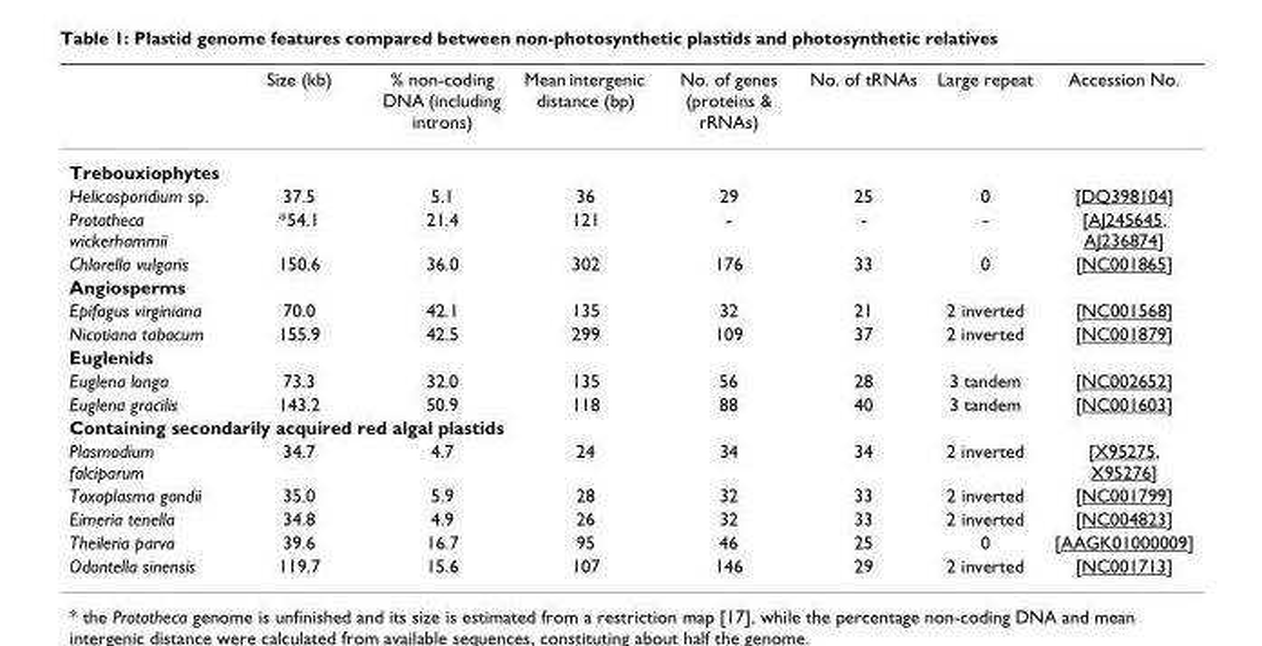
<table><thead><tr><td></td><td>Size (kb)</td><td>% non-coding DNA (including introns)</td><td>Mean intergenic distance (bp)</td><td>No. of genes (proteins &amp; rRNAs)</td><td>No. of tRNAs</td><td>Large repeat</td><td>Accession No.</td></tr></thead><tbody><tr><td colspan="8">Trebouxiophytes</td></tr><tr><td>Helicosporidium sp.</td><td>37.5</td><td>5.1</td><td>36</td><td>29</td><td>25</td><td>0</td><td>[DQ398104]</td></tr><tr><td>Prototheca wickerhammii</td><td>*54.1</td><td>21.4</td><td>121</td><td>-</td><td>-</td><td>-</td><td>[AJ245645, AJ236874]</td></tr><tr><td>Chlorella vulgaris</td><td>150.6</td><td>36.0</td><td>302</td><td>176</td><td>33</td><td>0</td><td>[NC001865]</td></tr><tr><td colspan="8">Angiosperms</td></tr><tr><td>Epifagus virginiana</td><td>70.0</td><td>42.1</td><td>135</td><td>32</td><td>21</td><td>2 inverted</td><td>[NC001568]</td></tr><tr><td>Nicotiana tabacum</td><td>155.9</td><td>42.5</td><td>299</td><td>109</td><td>37</td><td>2 inverted</td><td>[NC001879]</td></tr><tr><td colspan="8">Euglenids</td></tr><tr><td>Euglena longa</td><td>73.3</td><td>32.0</td><td>135</td><td>56</td><td>28</td><td>3 tandem</td><td>[NC002652]</td></tr><tr><td>Euglena gracilis</td><td>143.2</td><td>50.9</td><td>118</td><td>88</td><td>40</td><td>3 tandem</td><td>[NC001603]</td></tr><tr><td colspan="8">Containing secondarily acquired red algal plastids</td></tr><tr><td>Plasmodium falciparum</td><td>34.7</td><td>4.7</td><td>24</td><td>34</td><td>34</td><td>2 inverted</td><td>[X95275, X95276]</td></tr><tr><td>Toxoplasma gondii</td><td>35.0</td><td>5.9</td><td>28</td><td>32</td><td>33</td><td>2 inverted</td><td>[NC001799]</td></tr><tr><td>Eimeria tenella</td><td>34.8</td><td>4.9</td><td>26</td><td>32</td><td>33</td><td>2 inverted</td><td>[NC004823]</td></tr><tr><td>Theileria parva</td><td>39.6</td><td>16.7</td><td>95</td><td>46</td><td>25</td><td>0</td><td>[AAGK01000009]</td></tr><tr><td>Odontella sinensis</td><td>119.7</td><td>15.6</td><td>107</td><td>146</td><td>29</td><td>2 inverted</td><td>[NC001713]</td></tr></tbody></table>